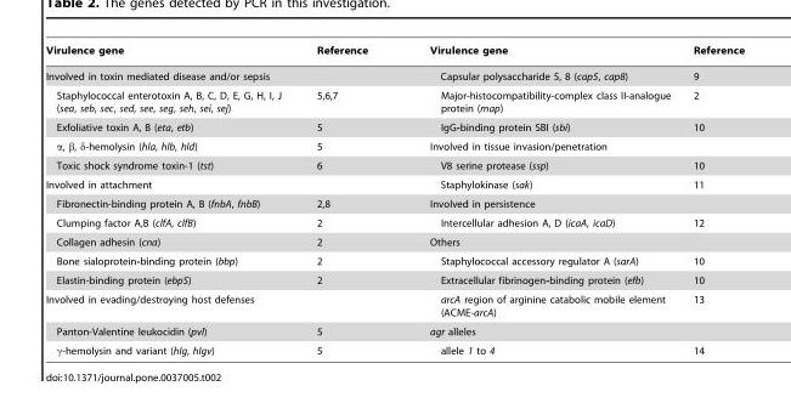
<table><thead><tr><td>Virulence gene</td><td>Reference</td><td>Virulence gene</td><td>Reference</td></tr></thead><tbody><tr><td>Involved in toxin mediated disease and/or sepsis</td><td></td><td>Capsular polysaccharide 5, 8 (cap5, cap8)</td><td>9</td></tr><tr><td>Staphylococcal enterotoxin A, B, C, D, E, G, H, I, J (sea, seb, sec, sed, see, seg, seh, sei, sej)</td><td>5,6,7</td><td>Major-histocompatibility-complex class II-analogue protein (map)</td><td>2</td></tr><tr><td>Exfoliative toxin A, B (eta, etb)</td><td>5</td><td>IgG-binding protein SBI (sbi)</td><td>10</td></tr><tr><td>α, β, δ-hemolysin (hla, hlb, hld)</td><td>5</td><td>Involved in tissue invasion/penetration</td><td></td></tr><tr><td>Toxic shock syndrome toxin-1 (tst)</td><td>6</td><td>V8 serine protease (ssp)</td><td>10</td></tr><tr><td>Involved in attachment</td><td></td><td>Staphylokinase (sak)</td><td>11</td></tr><tr><td>Fibronectin-binding protein A, B (fnbA, fnbB)</td><td>2,8</td><td>Involved in persistence</td><td></td></tr><tr><td>Clumping factor A,B (clfA, clfB)</td><td>2</td><td>Intercellular adhesion A, D (icaA, icaD)</td><td>12</td></tr><tr><td>Collagen adhesin (cna)</td><td>2</td><td>Others</td><td></td></tr><tr><td>Bone sialoprotein-binding protein (bbp)</td><td>2</td><td>Staphylococcal accessory regulator A (sarA)</td><td>10</td></tr><tr><td>Elastin-binding protein (ebpS)</td><td>2</td><td>Extracellular fibrinogen-binding protein (efb)</td><td>10</td></tr><tr><td>Involved in evading/destroying host defenses</td><td></td><td>arcA region of arginine catabolic mobile element (ACME-arcA)</td><td>13</td></tr><tr><td>Panton-Valentine leukocidin (pvl)</td><td>5</td><td>agr alleles</td><td></td></tr><tr><td>γ-hemolysin and variant (hlg, hlgv)</td><td>5</td><td>allele 1 to 4</td><td>14</td></tr></tbody></table>